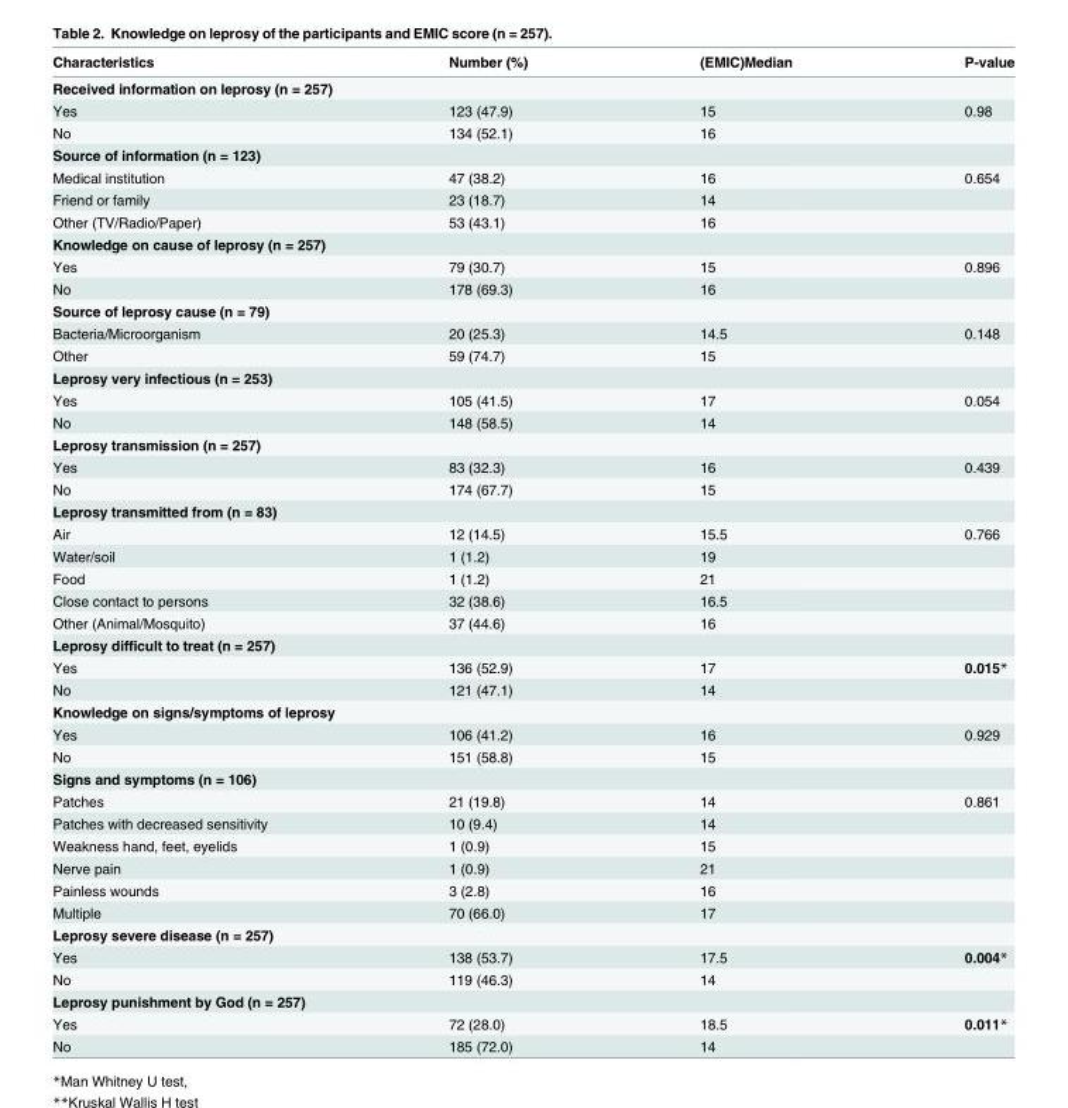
<table><thead><tr><td>Characteristics</td><td>Number (%)</td><td>(EMIC)Median</td><td>P-value</td></tr></thead><tbody><tr><td colspan="4">Received information on leprosy (n = 257)</td></tr><tr><td>Yes</td><td>123 (47.9)</td><td>15</td><td>0.98</td></tr><tr><td>No</td><td>134 (52.1)</td><td>16</td><td></td></tr><tr><td colspan="4">Source of information (n = 123)</td></tr><tr><td>Medical institution</td><td>47 (38.2)</td><td>16</td><td>0.654</td></tr><tr><td>Friend or family</td><td>23 (18.7)</td><td>14</td><td></td></tr><tr><td>Other (TV/Radio/Paper)</td><td>53 (43.1)</td><td>16</td><td></td></tr><tr><td colspan="4">Knowledge on cause of leprosy (n = 257)</td></tr><tr><td>Yes</td><td>79 (30.7)</td><td>15</td><td>0.896</td></tr><tr><td>No</td><td>178 (69.3)</td><td>16</td><td></td></tr><tr><td colspan="4">Source of leprosy cause (n = 79)</td></tr><tr><td>Bacteria/Microorganism</td><td>20 (25.3)</td><td>14.5</td><td>0.148</td></tr><tr><td>Other</td><td>59 (74.7)</td><td>15</td><td></td></tr><tr><td colspan="4">Leprosy very infectious (n = 253)</td></tr><tr><td>Yes</td><td>105 (41.5)</td><td>17</td><td>0.054</td></tr><tr><td>No</td><td>148 (58.5)</td><td>14</td><td></td></tr><tr><td colspan="4">Leprosy transmission (n = 257)</td></tr><tr><td>Yes</td><td>83 (32.3)</td><td>16</td><td>0.439</td></tr><tr><td>No</td><td>174 (67.7)</td><td>15</td><td></td></tr><tr><td colspan="4">Leprosy transmitted from (n = 83)</td></tr><tr><td>Air</td><td>12 (14.5)</td><td>15.5</td><td>0.766</td></tr><tr><td>Water/soil</td><td>1 (1.2)</td><td>19</td><td></td></tr><tr><td>Food</td><td>1 (1.2)</td><td>21</td><td></td></tr><tr><td>Close contact to persons</td><td>32 (38.6)</td><td>16.5</td><td></td></tr><tr><td>Other (Animal/Mosquito)</td><td>37 (44.6)</td><td>16</td><td></td></tr><tr><td colspan="4">Leprosy difficult to treat (n = 257)</td></tr><tr><td>Yes</td><td>136 (52.9)</td><td>17</td><td>0.015*</td></tr><tr><td>No</td><td>121 (47.1)</td><td>14</td><td></td></tr><tr><td colspan="4">Knowledge on signs/symptoms of leprosy</td></tr><tr><td>Yes</td><td>106 (41.2)</td><td>16</td><td>0.929</td></tr><tr><td>No</td><td>151 (58.8)</td><td>15</td><td></td></tr><tr><td colspan="4">Signs and symptoms (n = 106)</td></tr><tr><td>Patches</td><td>21 (19.8)</td><td>14</td><td>0.861</td></tr><tr><td>Patches with decreased sensitivity</td><td>10 (9.4)</td><td>14</td><td></td></tr><tr><td>Weakness hand, feet, eyelids</td><td>1 (0.9)</td><td>15</td><td></td></tr><tr><td>Nerve pain</td><td>1 (0.9)</td><td>21</td><td></td></tr><tr><td>Painless wounds</td><td>3 (2.8)</td><td>16</td><td></td></tr><tr><td>Multiple</td><td>70 (66.0)</td><td>17</td><td></td></tr><tr><td colspan="4">Leprosy severe disease (n = 257)</td></tr><tr><td>Yes</td><td>138 (53.7)</td><td>17.5</td><td>0.004*</td></tr><tr><td>No</td><td>119 (46.3)</td><td>14</td><td></td></tr><tr><td colspan="4">Leprosy punishment by God (n = 257)</td></tr><tr><td>Yes</td><td>72 (28.0)</td><td>18.5</td><td>0.011*</td></tr><tr><td>No</td><td>185 (72.0)</td><td>14</td><td></td></tr></tbody></table>